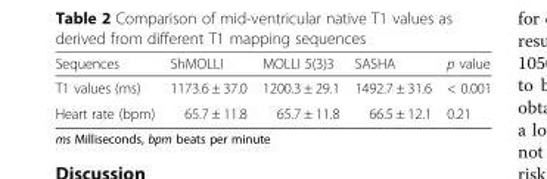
<table><thead><tr><td>Sequences</td><td>ShMOLLI</td><td>MOLLI 5(3)3</td><td>SASHA</td><td>p value</td></tr></thead><tbody><tr><td>T1 values (ms)</td><td>1173.6 ± 37.0</td><td>1200.3 ± 29.1</td><td>1492.7 ± 31.6</td><td>&lt; 0.001</td></tr><tr><td>Heart rate (bpm)</td><td>65.7 ± 11.8</td><td>65.7 ± 11.8</td><td>66.5 ± 12.1</td><td>0.21</td></tr></tbody></table>